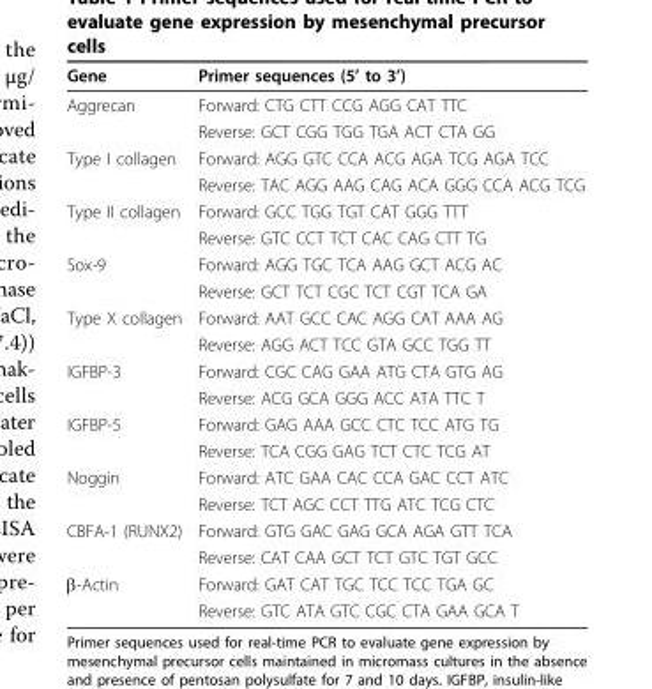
<table><thead><tr><td>Gene</td><td>Primer sequences (5’ to 3’)</td></tr></thead><tbody><tr><td rowspan="2">Aggrecan</td><td>Forward: CTG CTT CCG AGG CAT TTC</td></tr><tr><td>Reverse: GCT CGG TGG TGA ACT CTA GG</td></tr><tr><td rowspan="2">Type I collagen</td><td>Forward: AGG GTC CCA ACG AGA TCG AGA TCC</td></tr><tr><td>Reverse: TAC AGG AAG CAG ACA GGG CCA ACG TCG</td></tr><tr><td rowspan="2">Type II collagen</td><td>Forward: GCC TGG TGT CAT GGG TTT</td></tr><tr><td>Reverse: GTC CCT TCT CAC CAG CTT TG</td></tr><tr><td rowspan="2">Sox-9</td><td>Forward: AGG TGC TCA AAG GCT ACG AC</td></tr><tr><td>Reverse: GCT TCT CGC TCT CGT TCA GA</td></tr><tr><td rowspan="2">Type X collagen</td><td>Forward: AAT GCC CAC AGG CAT AAA AG</td></tr><tr><td>Reverse: AGG ACT TCC GTA GCC TGG TT</td></tr><tr><td rowspan="2">IGFBP-3</td><td>Forward: CGC CAG GAA ATG CTA GTG AG</td></tr><tr><td>Reverse: ACG GCA GGG ACC ATA TTC T</td></tr><tr><td rowspan="2">IGFBP-5</td><td>Forward: GAG AAA GCC CTC TCC ATG TG</td></tr><tr><td>Reverse: TCA CGG GAG TCT CTC TCG AT</td></tr><tr><td rowspan="2">Noggin</td><td>Forward: ATC GAA CAC CCA GAC CCT ATC</td></tr><tr><td>Reverse: TCT AGC CCT TTG ATC TCG CTC</td></tr><tr><td rowspan="2">CBFA-1 (RUNX2)</td><td>Forward: GTG GAC GAG GCA AGA GTT TCA</td></tr><tr><td>Reverse: CAT CAA GCT TCT GTC TGT GCC</td></tr><tr><td rowspan="2">β-Actin</td><td>Forward: GAT CAT TGC TCC TCC TGA GC</td></tr><tr><td>Reverse: GTC ATA GTC CGC CTA GAA GCA T</td></tr></tbody></table>